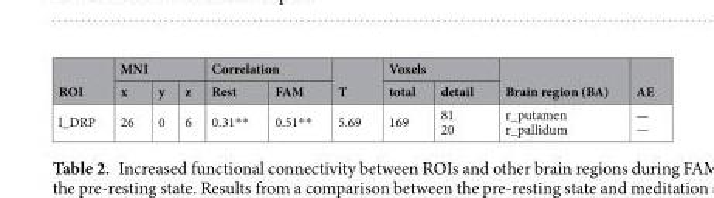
<table><thead><tr><td rowspan="2">ROI</td><td colspan="3">MNI</td><td colspan="2">Correlation</td><td rowspan="2">T</td><td colspan="2">Voxels</td><td rowspan="2">Brain region (BA)</td><td rowspan="2">AE</td></tr><tr><td>x</td><td>y</td><td>z</td><td>Rest</td><td>FAM</td><td>total</td><td>detail</td></tr></thead><tbody><tr><td>l_DRP</td><td>26</td><td>0</td><td>6</td><td>0.31**</td><td>0.51**</td><td>5.69</td><td>169</td><td>81 20</td><td>r_putamen r_pallidum</td><td>— —</td></tr></tbody></table>